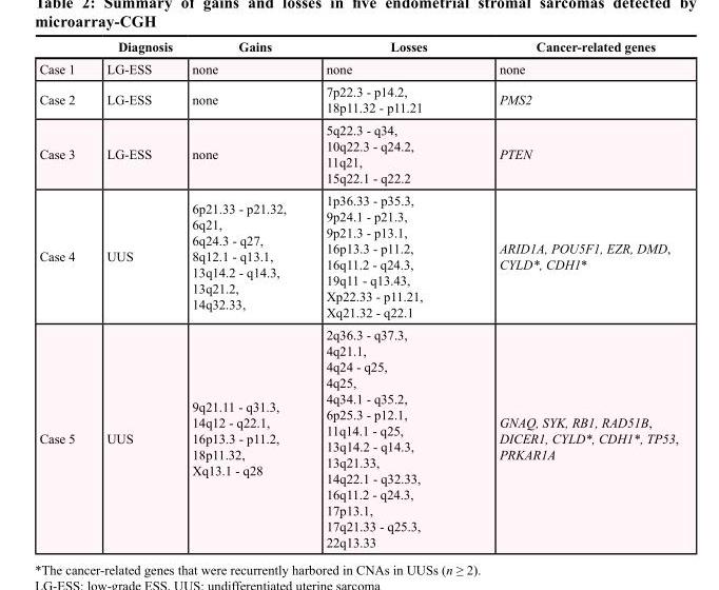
<table><thead><tr><td></td><td>Diagnosis</td><td>Gains</td><td>Losses</td><td>Cancer-related genes</td></tr></thead><tbody><tr><td>Case 1</td><td>LG-ESS</td><td>none</td><td>none</td><td>none</td></tr><tr><td>Case 2</td><td>LG-ESS</td><td>none</td><td>7p22.3 - p14.2, 18p11.32 - p11.21</td><td>PMS2</td></tr><tr><td>Case 3</td><td>LG-ESS</td><td>none</td><td>5q22.3 - q34, 10q22.3 - q24.2, 11q21, 15q22.1 - q22.2</td><td>PTEN</td></tr><tr><td>Case 4</td><td>UUS</td><td>6p21.33 - p21.32, 6q21, 6q24.3 - q27, 8q12.1 - q13.1, 13q14.2 - q14.3, 13q21.2, 14q32.33,</td><td>1p36.33 - p35.3, 9p24.1 - p21.3, 9p21.3 - p13.1, 16p13.3 - p11.2, 16q11.2 - q24.3, 19q11 - q13.43, Xp22.33 - p11.21, Xq21.32 - q22.1</td><td>ARID1A, POU5F1, EZR, DMD, CYLD*, CDH1*</td></tr><tr><td>Case 5</td><td>UUS</td><td>9q21.11 - q31.3, 14q12 - q22.1, 16p13.3 - p11.2, 18p11.32, Xq13.1 - q28</td><td>2q36.3 - q37.3, 4q21.1, 4q24 - q25, 4q25, 4q34.1 - q35.2, 6p25.3 - p12.1, 11q14.1 - q25, 13q14.2 - q14.3, 13q21.33, 14q22.1 - q32.33, 16q11.2 - q24.3, 17p13.1, 17q21.33 - q25.3, 22q13.33</td><td>GNAQ, SYK, RB1, RAD51B, DICER1, CYLD*, CDH1*, TP53, PRKAR1A</td></tr></tbody></table>